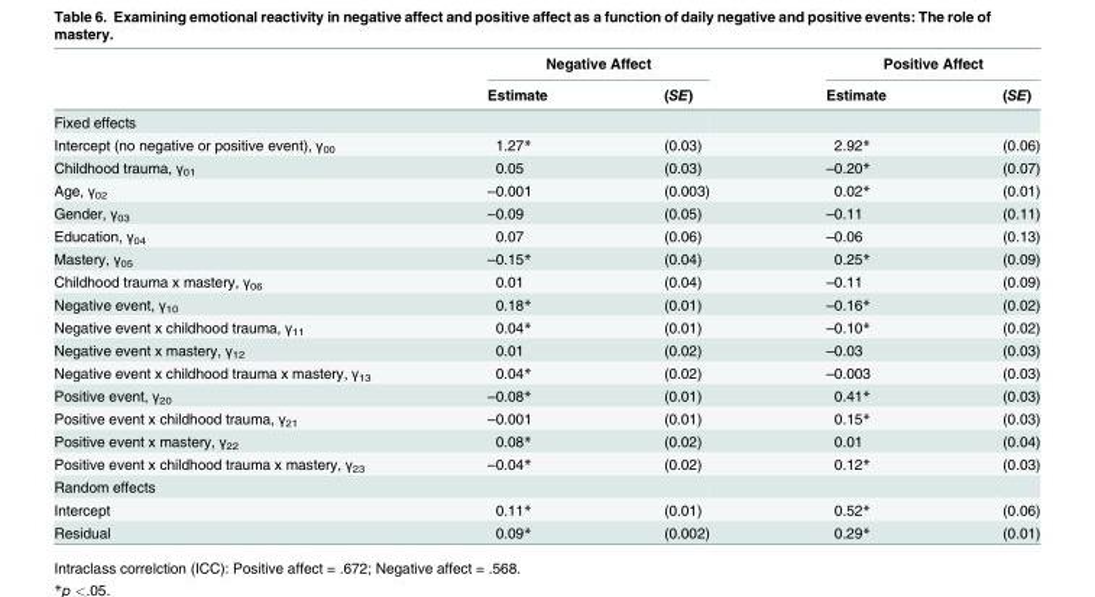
<table><thead><tr><td rowspan="2"></td><td colspan="2">Negative Affect</td><td colspan="2">Positive Affect</td></tr><tr><td>Estimate</td><td>(SE)</td><td>Estimate</td><td>(SE)</td></tr></thead><tbody><tr><td colspan="5">Fixed effects</td></tr><tr><td>Intercept (no negative or positive event), γ<sub>00</sub></td><td>1.27*</td><td>(0.03)</td><td>2.92*</td><td>(0.06)</td></tr><tr><td>Childhood trauma, γ<sub>01</sub></td><td>0.05</td><td>(0.03)</td><td>–0.20*</td><td>(0.07)</td></tr><tr><td>Age, γ<sub>02</sub></td><td>–0.001</td><td>(0.003)</td><td>0.02*</td><td>(0.01)</td></tr><tr><td>Gender, γ<sub>03</sub></td><td>–0.09</td><td>(0.05)</td><td>–0.11</td><td>(0.11)</td></tr><tr><td>Education, γ<sub>04</sub></td><td>0.07</td><td>(0.06)</td><td>–0.06</td><td>(0.13)</td></tr><tr><td>Mastery, γ<sub>05</sub></td><td>–0.15*</td><td>(0.04)</td><td>0.25*</td><td>(0.09)</td></tr><tr><td>Childhood trauma x mastery, γ<sub>06</sub></td><td>0.01</td><td>(0.04)</td><td>–0.11</td><td>(0.09)</td></tr><tr><td>Negative event, γ<sub>10</sub></td><td>0.18*</td><td>(0.01)</td><td>–0.16*</td><td>(0.02)</td></tr><tr><td>Negative event x childhood trauma, γ<sub>11</sub></td><td>0.04*</td><td>(0.01)</td><td>–0.10*</td><td>(0.02)</td></tr><tr><td>Negative event x mastery, γ<sub>12</sub></td><td>0.01</td><td>(0.02)</td><td>–0.03</td><td>(0.03)</td></tr><tr><td>Negative event x childhood trauma x mastery, γ<sub>13</sub></td><td>0.04*</td><td>(0.02)</td><td>–0.003</td><td>(0.03)</td></tr><tr><td>Positive event, γ<sub>20</sub></td><td>–0.08*</td><td>(0.01)</td><td>0.41*</td><td>(0.03)</td></tr><tr><td>Positive event x childhood trauma, γ<sub>21</sub></td><td>–0.001</td><td>(0.01)</td><td>0.15*</td><td>(0.03)</td></tr><tr><td>Positive event x mastery, γ<sub>22</sub></td><td>0.08*</td><td>(0.02)</td><td>0.01</td><td>(0.04)</td></tr><tr><td>Positive event x childhood trauma x mastery, γ<sub>23</sub></td><td>–0.04*</td><td>(0.02)</td><td>0.12*</td><td>(0.03)</td></tr><tr><td colspan="5">Random effects</td></tr><tr><td>Intercept</td><td>0.11*</td><td>(0.01)</td><td>0.52*</td><td>(0.06)</td></tr><tr><td>Residual</td><td>0.09*</td><td>(0.002)</td><td>0.29*</td><td>(0.01)</td></tr></tbody></table>